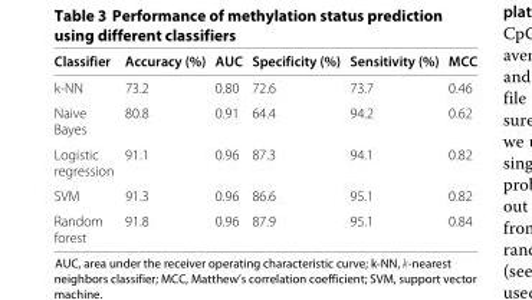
<table><thead><tr><td>Classifier</td><td>Accuracy (%)</td><td>AUC</td><td>Specificity (%)</td><td>Sensitivity (%)</td><td>MCC</td></tr></thead><tbody><tr><td>k-NN</td><td>73.2</td><td>0.80</td><td>72.6</td><td>73.7</td><td>0.46</td></tr><tr><td>Naive Bayes</td><td>80.8</td><td>0.91</td><td>64.4</td><td>94.2</td><td>0.62</td></tr><tr><td>Logistic regression</td><td>91.1</td><td>0.96</td><td>87.3</td><td>94.1</td><td>0.82</td></tr><tr><td>SVM</td><td>91.3</td><td>0.96</td><td>86.6</td><td>95.1</td><td>0.82</td></tr><tr><td>Random forest</td><td>91.8</td><td>0.96</td><td>87.9</td><td>95.1</td><td>0.84</td></tr></tbody></table>